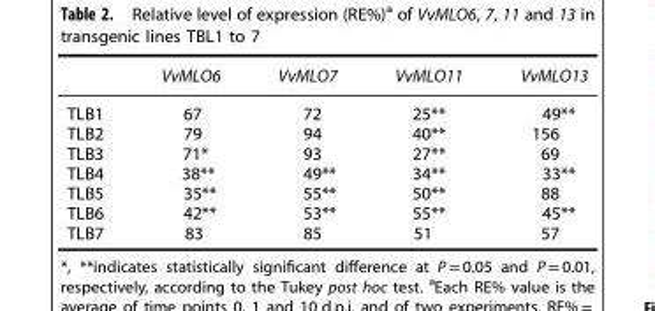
<table><thead><tr><td></td><td>VvMLO6</td><td>VvMLO7</td><td>VvMLO11</td><td>VvMLO13</td></tr></thead><tbody><tr><td>TLB1</td><td>67</td><td>72</td><td>25**</td><td>49**</td></tr><tr><td>TLB2</td><td>79</td><td>94</td><td>40**</td><td>156</td></tr><tr><td>TLB3</td><td>71*</td><td>93</td><td>27**</td><td>69</td></tr><tr><td>TLB4</td><td>38**</td><td>49**</td><td>34**</td><td>33**</td></tr><tr><td>TLB5</td><td>35**</td><td>55**</td><td>50**</td><td>88</td></tr><tr><td>TLB6</td><td>42**</td><td>53**</td><td>55**</td><td>45**</td></tr><tr><td>TLB7</td><td>83</td><td>85</td><td>51</td><td>57</td></tr></tbody></table>